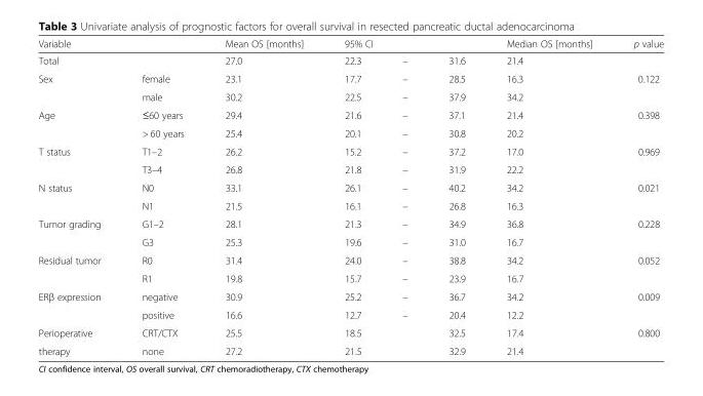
<table><thead><tr><td rowspan="2">Variable Total</td><td rowspan="2"></td><td rowspan="2">Mean OS [months] 27.0</td><td colspan="3">95% CI</td><td rowspan="2">Median OS [months] 21.4</td><td rowspan="2">p value</td></tr><tr><td>22.3</td><td>–</td><td>31.6</td></tr></thead><tbody><tr><td rowspan="2">Sex</td><td>female</td><td>23.1</td><td>17.7</td><td>–</td><td>28.5</td><td>16.3</td><td>0.122</td></tr><tr><td>male</td><td>30.2</td><td>22.5</td><td>–</td><td>37.9</td><td>34.2</td><td></td></tr><tr><td rowspan="2">Age</td><td>≤60 years</td><td>29.4</td><td>21.6</td><td>–</td><td>37.1</td><td>21.4</td><td>0.398</td></tr><tr><td>&gt; 60 years</td><td>25.4</td><td>20.1</td><td>–</td><td>30.8</td><td>20.2</td><td></td></tr><tr><td rowspan="2">T status</td><td>T1–2</td><td>26.2</td><td>15.2</td><td>–</td><td>37.2</td><td>17.0</td><td>0.969</td></tr><tr><td>T3–4</td><td>26.8</td><td>21.8</td><td>–</td><td>31.9</td><td>22.2</td><td></td></tr><tr><td rowspan="2">N status</td><td>N0</td><td>33.1</td><td>26.1</td><td>–</td><td>40.2</td><td>34.2</td><td>0.021</td></tr><tr><td>N1</td><td>21.5</td><td>16.1</td><td>–</td><td>26.8</td><td>16.3</td><td></td></tr><tr><td rowspan="2">Tumor grading</td><td>G1–2</td><td>28.1</td><td>21.3</td><td>–</td><td>34.9</td><td>36.8</td><td>0.228</td></tr><tr><td>G3</td><td>25.3</td><td>19.6</td><td>–</td><td>31.0</td><td>16.7</td><td></td></tr><tr><td rowspan="2">Residual tumor</td><td>R0</td><td>31.4</td><td>24.0</td><td>–</td><td>38.8</td><td>34.2</td><td>0.052</td></tr><tr><td>R1</td><td>19.8</td><td>15.7</td><td>–</td><td>23.9</td><td>16.7</td><td></td></tr><tr><td rowspan="2">ERβ expression</td><td>negative</td><td>30.9</td><td>25.2</td><td>–</td><td>36.7</td><td>34.2</td><td>0.009</td></tr><tr><td>positive</td><td>16.6</td><td>12.7</td><td>–</td><td>20.4</td><td>12.2</td><td></td></tr><tr><td>Perioperative</td><td>CRT/CTX</td><td>25.5</td><td>18.5</td><td></td><td>32.5</td><td>17.4</td><td>0.800</td></tr><tr><td>therapy</td><td>none</td><td>27.2</td><td>21.5</td><td></td><td>32.9</td><td>21.4</td><td></td></tr></tbody></table>